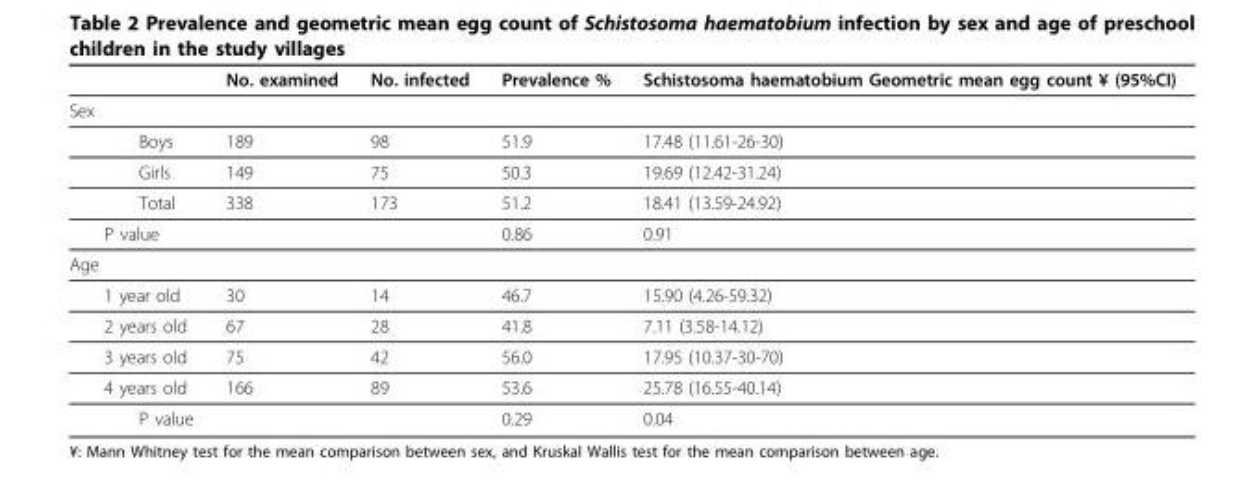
<table><thead><tr><td></td><td>No. examined</td><td>No. infected</td><td>Prevalence %</td><td>Schistosoma haematobium Geometric mean egg count ¥ (95%CI)</td></tr></thead><tbody><tr><td colspan="5">Sex</td></tr><tr><td>Boys</td><td>189</td><td>98</td><td>51.9</td><td>17.48 (11.61-26-30)</td></tr><tr><td>Girls</td><td>149</td><td>75</td><td>50.3</td><td>19.69 (12.42-31.24)</td></tr><tr><td>Total</td><td>338</td><td>173</td><td>51.2</td><td>18.41 (13.59-24.92)</td></tr><tr><td>P value</td><td></td><td></td><td>0.86</td><td>0.91</td></tr><tr><td colspan="5">Age</td></tr><tr><td>1 year old</td><td>30</td><td>14</td><td>46.7</td><td>15.90 (4.26-59.32)</td></tr><tr><td>2 years old</td><td>67</td><td>28</td><td>41.8</td><td>7.11 (3.58-14.12)</td></tr><tr><td>3 years old</td><td>75</td><td>42</td><td>56.0</td><td>17.95 (10.37-30-70)</td></tr><tr><td>4 years old</td><td>166</td><td>89</td><td>53.6</td><td>25.78 (16.55-40.14)</td></tr><tr><td>P value</td><td></td><td></td><td>0.29</td><td>0.04</td></tr></tbody></table>